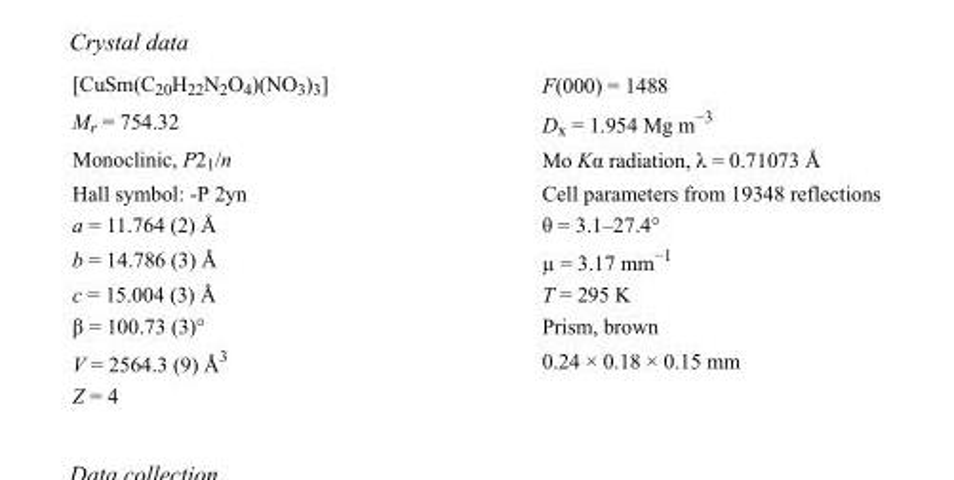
<table><tbody><tr><td>[CuSm(C<sub>20</sub>H<sub>22</sub>N<sub>2</sub>O<sub>4</sub>)(NO<sub>3</sub>)<sub>3</sub>]</td><td>F(000) = 1488</td></tr><tr><td>M<sub>r</sub> = 754.32</td><td>D<sub>x</sub> = 1.954 Mg m<sup>−3</sup></td></tr><tr><td>Monoclinic, P2<sub>1</sub>/n</td><td>Mo Kα radiation, λ = 0.71073 Å</td></tr><tr><td>Hall symbol: -P 2yn</td><td>Cell parameters from 19348 reflections</td></tr><tr><td>a = 11.764 (2) Å</td><td>θ = 3.1–27.4°</td></tr><tr><td>b = 14.786 (3) Å</td><td>µ = 3.17 mm<sup>−1</sup></td></tr><tr><td>c = 15.004 (3) Å</td><td>T = 295 K</td></tr><tr><td>β = 100.73 (3)°</td><td>Prism, brown</td></tr><tr><td>V = 2564.3 (9) Å<sup>3</sup></td><td>0.24 × 0.18 × 0.15 mm</td></tr><tr><td>Z = 4</td><td></td></tr></tbody></table>